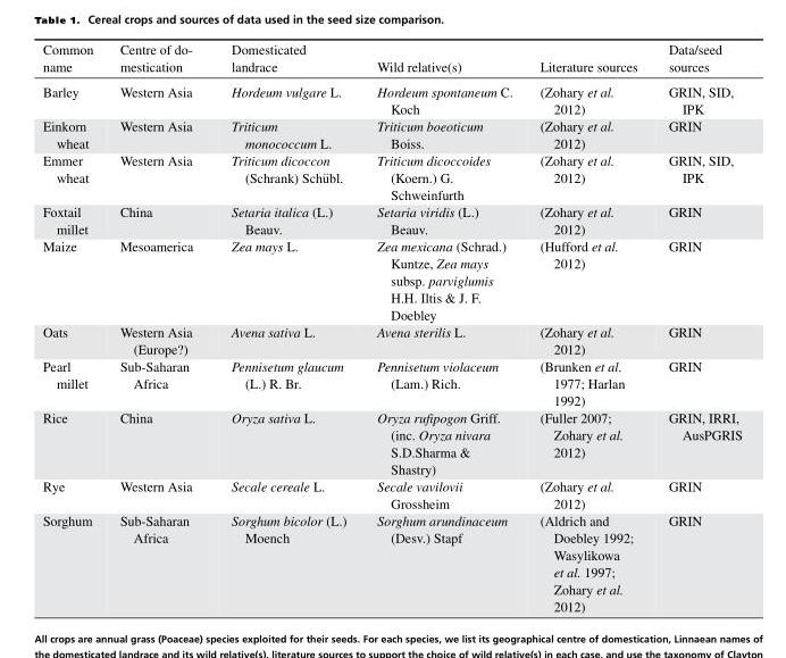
<table><thead><tr><td>Common name</td><td>Centre of do- mestication</td><td>Domesticated landrace</td><td>Wild relative(s)</td><td>Literature sources</td><td>Data/seed sources</td></tr></thead><tbody><tr><td>Barley</td><td>Western Asia</td><td>Hordeum vulgare L.</td><td>Hordeum spontaneum C. Koch</td><td>(Zohary et al. 2012)</td><td>GRIN, SID, IPK</td></tr><tr><td>Einkorn wheat</td><td>Western Asia</td><td>Triticum monococcum L.</td><td>Triticum boeoticum Boiss.</td><td>(Zohary et al. 2012)</td><td>GRIN</td></tr><tr><td>Emmer wheat</td><td>Western Asia</td><td>Triticum dicoccon (Schrank) Sch¨ubl.</td><td>Triticum dicoccoides (Koern.) G. Schweinfurth</td><td>(Zohary et al. 2012)</td><td>GRIN, SID, IPK</td></tr><tr><td>Foxtail millet</td><td>China</td><td>Setaria italica (L.) Beauv.</td><td>Setaria viridis (L.) Beauv.</td><td>(Zohary et al. 2012)</td><td>GRIN</td></tr><tr><td>Maize</td><td>Mesoamerica</td><td>Zea mays L.</td><td>Zea mexicana (Schrad.) Kuntze, Zea mays subsp. parviglumis H.H. Iltis &amp; J. F. Doebley</td><td>(Hufford et al. 2012)</td><td>GRIN</td></tr><tr><td>Oats</td><td>Western Asia (Europe?)</td><td>Avena sativa L.</td><td>Avena sterilis L.</td><td>(Zohary et al. 2012)</td><td>GRIN</td></tr><tr><td>Pearl millet</td><td>Sub-Saharan Africa</td><td>Pennisetum glaucum (L.) R. Br.</td><td>Pennisetum violaceum (Lam.) Rich.</td><td>(Brunken et al. 1977; Harlan 1992)</td><td>GRIN</td></tr><tr><td>Rice</td><td>China</td><td>Oryza sativa L.</td><td>Oryza rufipogon Griff. (inc. Oryza nivara S.D.Sharma &amp; Shastry)</td><td>(Fuller 2007; Zohary et al. 2012)</td><td>GRIN, IRRI, AusPGRIS</td></tr><tr><td>Rye</td><td>Western Asia</td><td>Secale cereale L.</td><td>Secale vavilovii Grossheim</td><td>(Zohary et al. 2012)</td><td>GRIN</td></tr><tr><td>Sorghum</td><td>Sub-Saharan Africa</td><td>Sorghum bicolor (L.) Moench</td><td>Sorghum arundinaceum (Desv.) Stapf</td><td>(Aldrich and Doebley 1992; Wasylikowa et al. 1997; Zohary et al. 2012)</td><td>GRIN</td></tr></tbody></table>